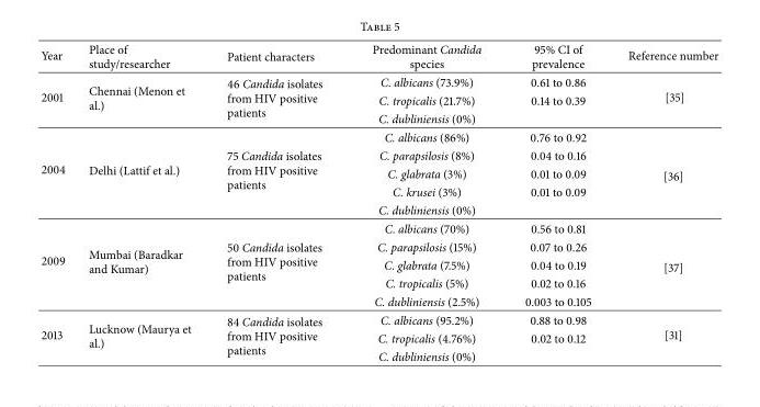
<table><thead><tr><td>Year</td><td>Place of study/researcher</td><td>Patient characters</td><td>Predominant Candida species</td><td>95% CI of prevalence</td><td>Reference number</td></tr></thead><tbody><tr><td rowspan="3">2001</td><td rowspan="3">Chennai (Menon et al.)</td><td rowspan="3">46 Candida isolates from HIV positive patients</td><td>C. albicans (73.9%)</td><td>0.61 to 0.86</td><td rowspan="3">[35]</td></tr><tr><td>C. tropicalis (21.7%)</td><td>0.14 to 0.39</td></tr><tr><td>C. dubliniensis (0%)</td><td></td></tr><tr><td rowspan="5">2004</td><td rowspan="5">Delhi (Lattif et al.)</td><td rowspan="5">75 Candida isolates from HIV positive patients</td><td>C. albicans (86%)</td><td>0.76 to 0.92</td><td rowspan="5">[36]</td></tr><tr><td>C. parapsilosis (8%)</td><td>0.04 to 0.16</td></tr><tr><td>C. glabrata (3%)</td><td>0.01 to 0.09</td></tr><tr><td>C. krusei (3%)</td><td>0.01 to 0.09</td></tr><tr><td>C. dubliniensis (0%)</td><td></td></tr><tr><td rowspan="5">2009</td><td rowspan="5">Mumbai (Baradkar and Kumar)</td><td rowspan="5">50 Candida isolates from HIV positive patients</td><td>C. albicans (70%)</td><td>0.56 to 0.81</td><td rowspan="5">[37]</td></tr><tr><td>C. parapsilosis (15%)</td><td>0.07 to 0.26</td></tr><tr><td>C. glabrata (7.5%)</td><td>0.04 to 0.19</td></tr><tr><td>C. tropicalis (5%)</td><td>0.02 to 0.16</td></tr><tr><td>C. dubliniensis (2.5%)</td><td>0.003 to 0.105</td></tr><tr><td rowspan="3">2013</td><td rowspan="3">Lucknow (Maurya et al.)</td><td rowspan="3">84 Candida isolates from HIV positive patients</td><td>C. albicans (95.2%)</td><td>0.88 to 0.98</td><td rowspan="3">[31]</td></tr><tr><td>C. tropicalis (4.76%)</td><td>0.02 to 0.12</td></tr><tr><td>C. dubliniensis (0%)</td><td></td></tr></tbody></table>